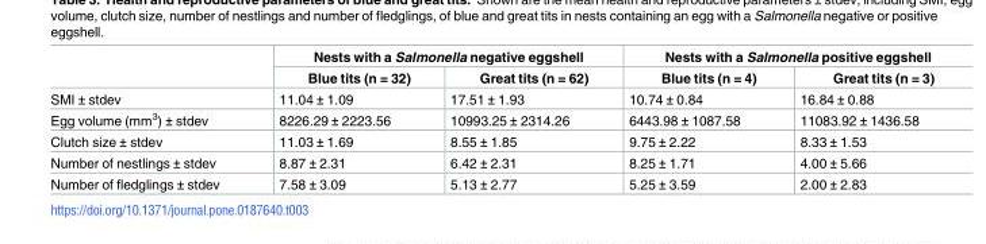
<table><thead><tr><td rowspan="2"></td><td colspan="2">Nests with a Salmonella negative eggshell</td><td colspan="2">Nests with a Salmonella positive eggshell</td></tr><tr><td>Blue tits (n = 32)</td><td>Great tits (n = 62)</td><td>Blue tits (n = 4)</td><td>Great tits (n = 3)</td></tr></thead><tbody><tr><td>SMI ± stdev</td><td>11.04 ± 1.09</td><td>17.51 ± 1.93</td><td>10.74 ± 0.84</td><td>16.84 ± 0.88</td></tr><tr><td>Egg volume (mm<sup>3</sup>) ± stdev</td><td>8226.29 ± 2223.56</td><td>10993.25 ± 2314.26</td><td>6443.98 ± 1087.58</td><td>11083.92 ± 1436.58</td></tr><tr><td>Clutch size ± stdev</td><td>11.03 ± 1.69</td><td>8.55 ± 1.85</td><td>9.75 ± 2.22</td><td>8.33 ± 1.53</td></tr><tr><td>Number of nestlings ± stdev</td><td>8.87 ± 2.31</td><td>6.42 ± 2.31</td><td>8.25 ± 1.71</td><td>4.00 ± 5.66</td></tr><tr><td>Number of fledglings ± stdev</td><td>7.58 ± 3.09</td><td>5.13 ± 2.77</td><td>5.25 ± 3.59</td><td>2.00 ± 2.83</td></tr></tbody></table>